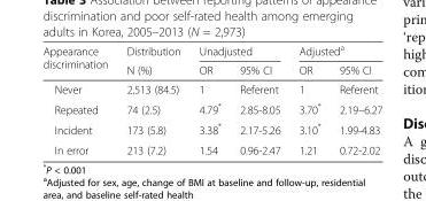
<table><thead><tr><td rowspan="2">Appearance discrimination</td><td rowspan="2">Distribution N (%)</td><td colspan="2">Unadjusted</td><td colspan="2">Adjusted<sup>a</sup></td></tr><tr><td>OR</td><td>95% CI</td><td>OR</td><td>95% CI</td></tr></thead><tbody><tr><td>Never</td><td>2,513 (84.5)</td><td>1</td><td>Referent</td><td>1</td><td>Referent</td></tr><tr><td>Repeated</td><td>74 (2.5)</td><td>4.79*</td><td>2.85-8.05</td><td>3.70*</td><td>2.19–6.27</td></tr><tr><td>Incident</td><td>173 (5.8)</td><td>3.38*</td><td>2.17-5.26</td><td>3.10*</td><td>1.99-4.83</td></tr><tr><td>In error</td><td>213 (7.2)</td><td>1.54</td><td>0.96-2.47</td><td>1.21</td><td>0.72-2.02</td></tr></tbody></table>